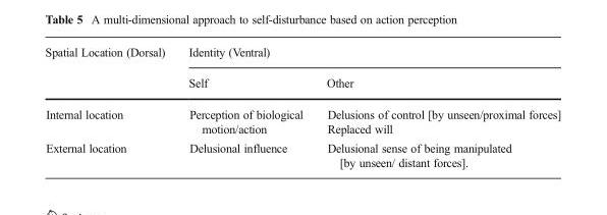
<table><thead><tr><td rowspan="2">Spatial Location (Dorsal)</td><td colspan="2">Identity (Ventral)</td></tr><tr><td>Self</td><td>Other</td></tr></thead><tbody><tr><td>Internal location</td><td>Perception of biological motion/action</td><td>Delusions of control [by unseen/proximal forces] Replaced will</td></tr><tr><td>External location</td><td>Delusional influence</td><td>Delusional sense of being manipulated [by unseen/ distant forces].</td></tr></tbody></table>